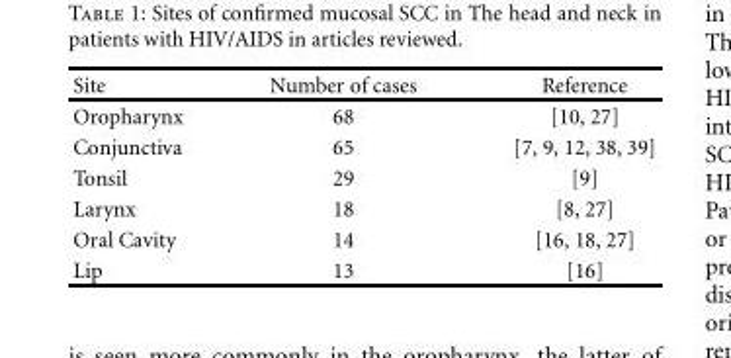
<table><thead><tr><td>Site</td><td>Number of cases</td><td>Reference</td></tr></thead><tbody><tr><td>Oropharynx</td><td>68</td><td>[10, 27]</td></tr><tr><td>Conjunctiva</td><td>65</td><td>[7, 9, 12, 38, 39]</td></tr><tr><td>Tonsil</td><td>29</td><td>[9]</td></tr><tr><td>Larynx</td><td>18</td><td>[8, 27]</td></tr><tr><td>Oral Cavity</td><td>14</td><td>[16, 18, 27]</td></tr><tr><td>Lip</td><td>13</td><td>[16]</td></tr></tbody></table>